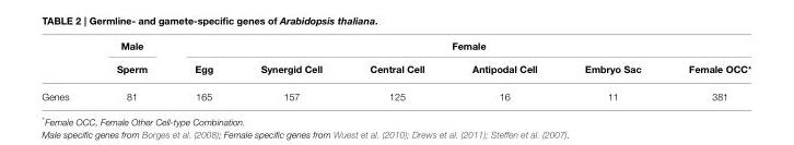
<table><thead><tr><td rowspan="2"></td><td rowspan="2">Male Sperm</td><td colspan="6">Female</td></tr><tr><td>Egg</td><td>Synergid Cell</td><td>Central Cell</td><td>Antipodal Cell</td><td>Embryo Sac</td><td>Female OCC*</td></tr></thead><tbody><tr><td>Genes</td><td>81</td><td>165</td><td>157</td><td>125</td><td>16</td><td>11</td><td>381</td></tr></tbody></table>